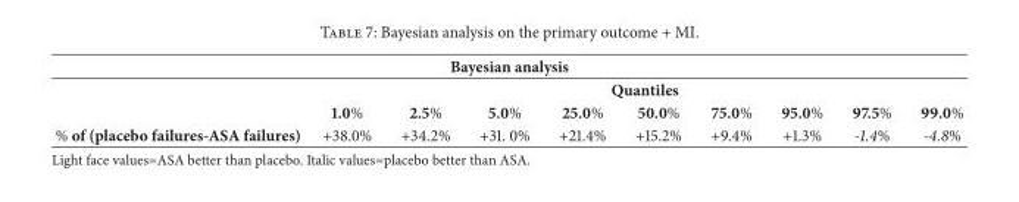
<table><thead><tr><td colspan="10">Bayesian analysis</td></tr><tr><td rowspan="2"></td><td colspan="9">Quantiles</td></tr><tr><td>1.0%</td><td>2.5%</td><td>5.0%</td><td>25.0%</td><td>50.0%</td><td>75.0%</td><td>95.0%</td><td>97.5%</td><td>99.0%</td></tr></thead><tbody><tr><td>% of (placebo failures-ASA failures)</td><td>+38.0%</td><td>+34.2%</td><td>+31. 0%</td><td>+21.4%</td><td>+15.2%</td><td>+9.4%</td><td>+1.3%</td><td>-1.4%</td><td>-4.8%</td></tr></tbody></table>